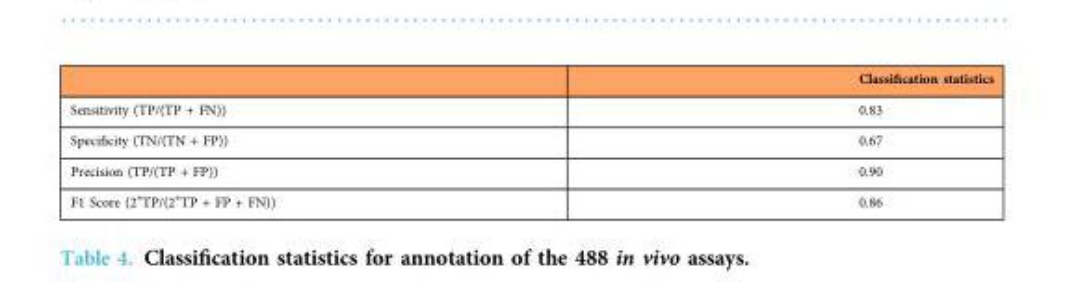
<table><thead><tr><td></td><td>Classification statistics</td></tr></thead><tbody><tr><td>Sensitivity (TP/(TP + FN))</td><td>0.83</td></tr><tr><td>Specificity (TN/(TN + FP))</td><td>0.67</td></tr><tr><td>Precision (TP/(TP + FP))</td><td>0.90</td></tr><tr><td>F1 Score (2∗TP/(2∗TP + FP + FN))</td><td>0.86</td></tr></tbody></table>